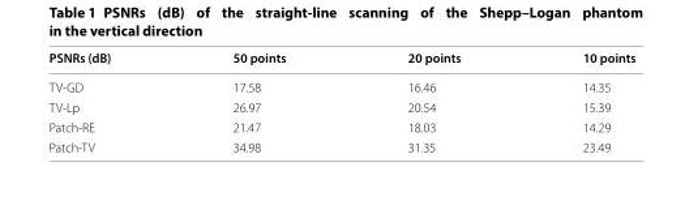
<table><thead><tr><td>PSNRs (dB)</td><td>50 points</td><td>20 points</td><td>10 points</td></tr></thead><tbody><tr><td>TV-GD</td><td>17.58</td><td>16.46</td><td>14.35</td></tr><tr><td>TV-Lp</td><td>26.97</td><td>20.54</td><td>15.39</td></tr><tr><td>Patch-RE</td><td>21.47</td><td>18.03</td><td>14.29</td></tr><tr><td>Patch-TV</td><td>34.98</td><td>31.35</td><td>23.49</td></tr></tbody></table>